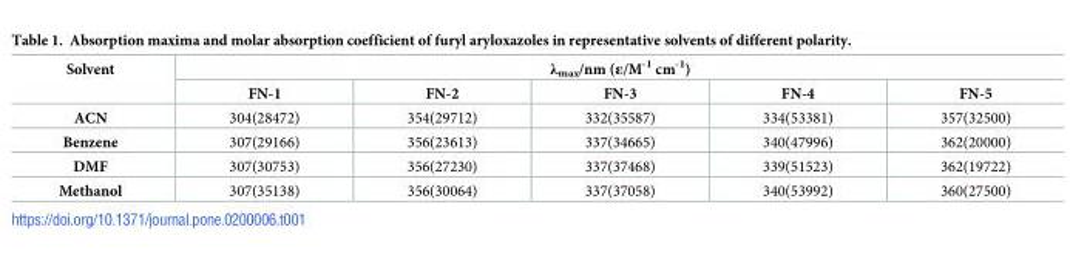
<table><thead><tr><td rowspan="2">Solvent</td><td colspan="5">λ<sub>max</sub>/nm (ε/M<sup>-1</sup> cm<sup>-1</sup>)</td></tr><tr><td>FN-1</td><td>FN-2</td><td>FN-3</td><td>FN-4</td><td>FN-5</td></tr></thead><tbody><tr><td>ACN</td><td>304(28472)</td><td>354(29712)</td><td>332(35587)</td><td>334(53381)</td><td>357(32500)</td></tr><tr><td>Benzene</td><td>307(29166)</td><td>356(23613)</td><td>337(34665)</td><td>340(47996)</td><td>362(20000)</td></tr><tr><td>DMF</td><td>307(30753)</td><td>356(27230)</td><td>337(37468)</td><td>339(51523)</td><td>362(19722)</td></tr><tr><td>Methanol</td><td>307(35138)</td><td>356(30064)</td><td>337(37058)</td><td>340(53992)</td><td>360(27500)</td></tr></tbody></table>